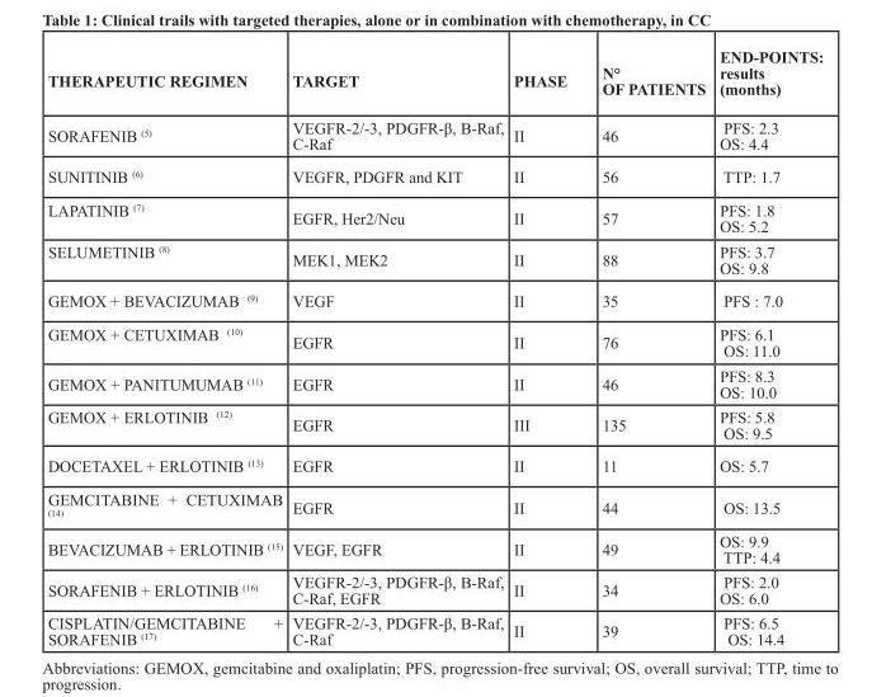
<table><thead><tr><td>THERAPEUTIC REGIMEN</td><td>TARGET</td><td>PHASE</td><td>N° OF PATIENTS</td><td>END-POINTS: results (months)</td></tr></thead><tbody><tr><td>SORAFENIB <sup>(5)</sup></td><td>VEGFR-2/-3, PDGFR-β, B-Raf, C-Raf</td><td>II</td><td>46</td><td>PFS: 2.3 OS: 4.4</td></tr><tr><td>SUNITINIB <sup>(6)</sup></td><td>VEGFR, PDGFR and KIT</td><td>II</td><td>56</td><td>TTP: 1.7</td></tr><tr><td>LAPATINIB <sup>(7)</sup></td><td>EGFR, Her2/Neu</td><td>II</td><td>57</td><td>PFS: 1.8 OS: 5.2</td></tr><tr><td>SELUMETINIB <sup>(8)</sup></td><td>MEK1, MEK2</td><td>II</td><td>88</td><td>PFS: 3.7 OS: 9.8</td></tr><tr><td>GEMOX + BEVACIZUMAB <sup>(9)</sup></td><td>VEGF</td><td>II</td><td>35</td><td>PFS : 7.0</td></tr><tr><td>GEMOX + CETUXIMAB <sup>(10)</sup></td><td>EGFR</td><td>II</td><td>76</td><td>PFS: 6.1 OS: 11.0</td></tr><tr><td>GEMOX + PANITUMUMAB <sup>(11)</sup></td><td>EGFR</td><td>II</td><td>46</td><td>PFS: 8.3 OS: 10.0</td></tr><tr><td>GEMOX + ERLOTINIB <sup>(12)</sup></td><td>EGFR</td><td>III</td><td>135</td><td>PFS: 5.8 OS: 9.5</td></tr><tr><td>DOCETAXEL + ERLOTINIB <sup>(13)</sup></td><td>EGFR</td><td>II</td><td>11</td><td>OS: 5.7</td></tr><tr><td>GEMCITABINE + CETUXIMAB <sup>(14)</sup></td><td>EGFR</td><td>II</td><td>44</td><td>OS: 13.5</td></tr><tr><td>BEVACIZUMAB + ERLOTINIB <sup>(15)</sup></td><td>VEGF, EGFR</td><td>II</td><td>49</td><td>OS: 9.9 TTP: 4.4</td></tr><tr><td>SORAFENIB + ERLOTINIB <sup>(16)</sup></td><td>VEGFR-2/-3, PDGFR-β, B-Raf, C-Raf, EGFR</td><td>II</td><td>34</td><td>PFS: 2.0 OS: 6.0</td></tr><tr><td>CISPLATIN/GEMCITABINE + SORAFENIB <sup>(17)</sup></td><td>VEGFR-2/-3, PDGFR-β, B-Raf, C-Raf</td><td>II</td><td>39</td><td>PFS: 6.5 OS: 14.4</td></tr></tbody></table>